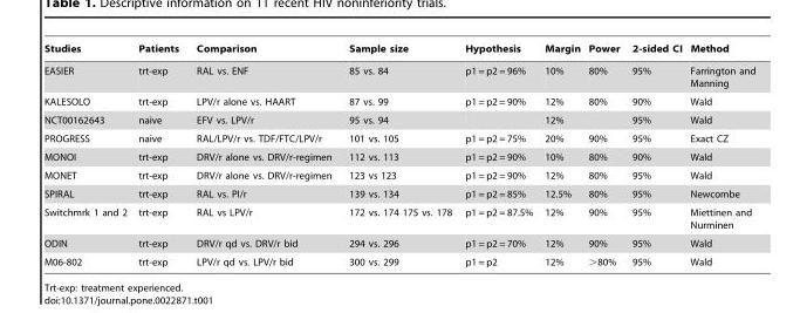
<table><thead><tr><td>Studies</td><td>Patients</td><td>Comparison</td><td>Sample size</td><td>Hypothesis</td><td>Margin</td><td>Power</td><td>2-sided CI</td><td>Method</td></tr></thead><tbody><tr><td>EASIER</td><td>trt-exp</td><td>RAL vs. ENF</td><td>85 vs. 84</td><td>p1 = p2 = 96%</td><td>10%</td><td>80%</td><td>95%</td><td>Farrington and Manning</td></tr><tr><td>KALESOLO</td><td>trt-exp</td><td>LPV/r alone vs. HAART</td><td>87 vs. 99</td><td>p1 = p2 = 90%</td><td>12%</td><td>80%</td><td>90%</td><td>Wald</td></tr><tr><td>NCT00162643</td><td>naive</td><td>EFV vs. LPV/r</td><td>95 vs. 94</td><td></td><td>12%</td><td></td><td>95%</td><td>Wald</td></tr><tr><td>PROGRESS</td><td>naive</td><td>RAL/LPV/r vs. TDF/FTC/LPV/r</td><td>101 vs. 105</td><td>p1 = p2 = 75%</td><td>20%</td><td>90%</td><td>95%</td><td>Exact CZ</td></tr><tr><td>MONOI</td><td>trt-exp</td><td>DRV/r alone vs. DRV/r-regimen</td><td>112 vs. 113</td><td>p1 = p2 = 90%</td><td>10%</td><td>80%</td><td>90%</td><td>Wald</td></tr><tr><td>MONET</td><td>trt-exp</td><td>DRV/r alone vs. DRV/r-regimen</td><td>123 vs 123</td><td>p1 = p2 = 90%</td><td>12%</td><td>80%</td><td>95%</td><td>Wald</td></tr><tr><td>SPIRAL</td><td>trt-exp</td><td>RAL vs. PI/r</td><td>139 vs. 134</td><td>p1 = p2 = 85%</td><td>12.5%</td><td>80%</td><td>95%</td><td>Newcombe</td></tr><tr><td>Switchmrk 1 and 2</td><td>trt-exp</td><td>RAL vs LPV/r</td><td>172 vs. 174 175 vs. 178</td><td>p1 = p2 = 87.5%</td><td>12%</td><td>90%</td><td>95%</td><td>Miettinen and Nurminen</td></tr><tr><td>ODIN</td><td>trt-exp</td><td>DRV/r qd vs. DRV/r bid</td><td>294 vs. 296</td><td>p1 = p2 = 70%</td><td>12%</td><td>90%</td><td>95%</td><td>Wald</td></tr><tr><td>M06-802</td><td>trt-exp</td><td>LPV/r qd vs. LPV/r bid</td><td>300 vs. 299</td><td>p1 = p2</td><td>12%</td><td>&gt;80%</td><td>95%</td><td>Wald</td></tr></tbody></table>